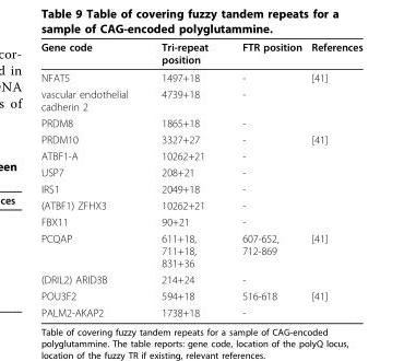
<table><thead><tr><td>Gene code</td><td>Tri-repeat position</td><td>FTR position</td><td>References</td></tr></thead><tbody><tr><td>NFAT5</td><td>1497+18</td><td>-</td><td>[41]</td></tr><tr><td>vascular endothelial cadherin 2</td><td>4739+18</td><td>-</td><td></td></tr><tr><td>PRDM8</td><td>1865+18</td><td>-</td><td></td></tr><tr><td>PRDM10</td><td>3327+27</td><td>-</td><td>[41]</td></tr><tr><td>ATBF1-A</td><td>10262+21</td><td>-</td><td></td></tr><tr><td>USP7</td><td>208+21</td><td>-</td><td></td></tr><tr><td>IRS1</td><td>2049+18</td><td>-</td><td></td></tr><tr><td>(ATBF1) ZFHX3</td><td>10262+21</td><td>-</td><td></td></tr><tr><td>FBX11</td><td>90+21</td><td>-</td><td></td></tr><tr><td>PCQAP</td><td>611+18, 711+18, 831+36</td><td>607-652, 712-869</td><td>[41]</td></tr><tr><td>(DRIL2) ARID3B</td><td>214+24</td><td>-</td><td></td></tr><tr><td>POU3F2</td><td>594+18</td><td>516-618</td><td>[41]</td></tr><tr><td>PALM2-AKAP2</td><td>1738+18</td><td>-</td><td></td></tr></tbody></table>